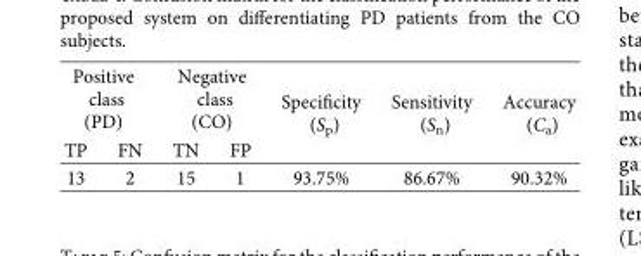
<table><thead><tr><td colspan="2">Positive class (PD)</td><td colspan="2">Negative class (CO)</td><td rowspan="2">Specificity (S<sub>p</sub>)</td><td rowspan="2">Sensitivity (S<sub>n</sub>)</td><td rowspan="2">Accuracy (C<sub>a</sub>)</td></tr><tr><td>TP</td><td>FN</td><td>TN</td><td>FP</td></tr></thead><tbody><tr><td>13</td><td>2</td><td>15</td><td>1</td><td>93.75%</td><td>86.67%</td><td>90.32%</td></tr></tbody></table>